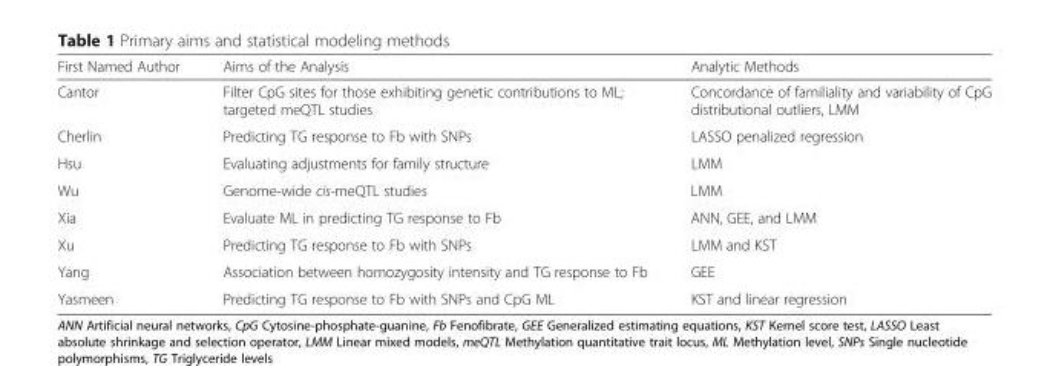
<table><thead><tr><td>First Named Author</td><td>Aims of the Analysis</td><td>Analytic Methods</td></tr></thead><tbody><tr><td>Cantor</td><td>Filter CpG sites for those exhibiting genetic contributions to ML; targeted meQTL studies</td><td>Concordance of familiality and variability of CpG distributional outliers, LMM</td></tr><tr><td>Cherlin</td><td>Predicting TG response to Fb with SNPs</td><td>LASSO penalized regression</td></tr><tr><td>Hsu</td><td>Evaluating adjustments for family structure</td><td>LMM</td></tr><tr><td>Wu</td><td>Genome-wide cis-meQTL studies</td><td>LMM</td></tr><tr><td>Xia</td><td>Evaluate ML in predicting TG response to Fb</td><td>ANN, GEE, and LMM</td></tr><tr><td>Xu</td><td>Predicting TG response to Fb with SNPs</td><td>LMM and KST</td></tr><tr><td>Yang</td><td>Association between homozygosity intensity and TG response to Fb</td><td>GEE</td></tr><tr><td>Yasmeen</td><td>Predicting TG response to Fb with SNPs and CpG ML</td><td>KST and linear regression</td></tr></tbody></table>